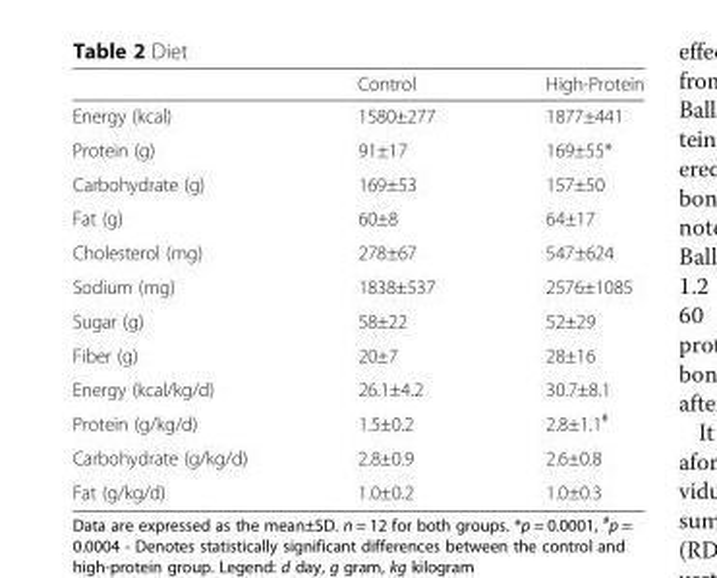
<table><thead><tr><td></td><td>Control</td><td>High-Protein</td></tr></thead><tbody><tr><td>Energy (kcal)</td><td>1580±277</td><td>1877±441</td></tr><tr><td>Protein (g)</td><td>91±17</td><td>169±55*</td></tr><tr><td>Carbohydrate (g)</td><td>169±53</td><td>157±50</td></tr><tr><td>Fat (g)</td><td>60±8</td><td>64±17</td></tr><tr><td>Cholesterol (mg)</td><td>278±67</td><td>547±624</td></tr><tr><td>Sodium (mg)</td><td>1838±537</td><td>2576±1085</td></tr><tr><td>Sugar (g)</td><td>58±22</td><td>52±29</td></tr><tr><td>Fiber (g)</td><td>20±7</td><td>28±16</td></tr><tr><td>Energy (kcal/kg/d)</td><td>26.1±4.2</td><td>30.7±8.1</td></tr><tr><td>Protein (g/kg/d)</td><td>1.5±0.2</td><td>2.8±1.1<sup>#</sup></td></tr><tr><td>Carbohydrate (g/kg/d)</td><td>2.8±0.9</td><td>2.6±0.8</td></tr><tr><td>Fat (g/kg/d)</td><td>1.0±0.2</td><td>1.0±0.3</td></tr></tbody></table>